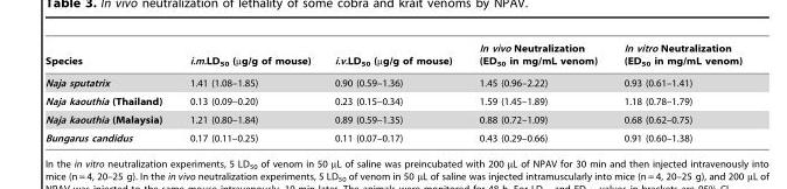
<table><thead><tr><td>Species</td><td>i.m.LD<sub>50</sub> (µg/g of mouse)</td><td>i.v.LD<sub>50</sub> (µg/g of mouse)</td><td>In vivo Neutralization (ED<sub>50</sub> in mg/mL venom)</td><td>In vitro Neutralization (ED<sub>50</sub> in mg/mL venom)</td></tr></thead><tbody><tr><td>Naja sputatrix</td><td>1.41 (1.08–1.85)</td><td>0.90 (0.59–1.36)</td><td>1.45 (0.96–2.22)</td><td>0.93 (0.61–1.41)</td></tr><tr><td>Naja kaouthia (Thailand)</td><td>0.13 (0.09–0.20)</td><td>0.23 (0.15–0.34)</td><td>1.59 (1.45–1.89)</td><td>1.18 (0.78–1.79)</td></tr><tr><td>Naja kaouthia (Malaysia)</td><td>1.21 (0.80–1.84)</td><td>0.89 (0.59–1.35)</td><td>0.88 (0.72–1.09)</td><td>0.68 (0.62–0.75)</td></tr><tr><td>Bungarus candidus</td><td>0.17 (0.11–0.25)</td><td>0.11 (0.07–0.17)</td><td>0.43 (0.29–0.66)</td><td>0.91 (0.60–1.38)</td></tr></tbody></table>